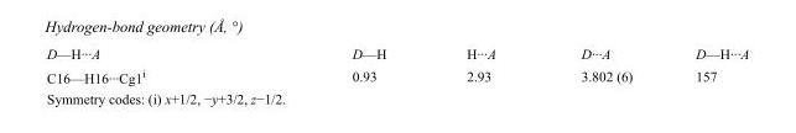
<table><tbody><tr><td>D—H···A</td><td>D—H</td><td>H···A</td><td>D···A</td><td>D—H···A</td></tr><tr><td>C16—H16···Cg1<sup>i</sup></td><td>0.93</td><td>2.93</td><td>3.802 (6)</td><td>157</td></tr></tbody></table>